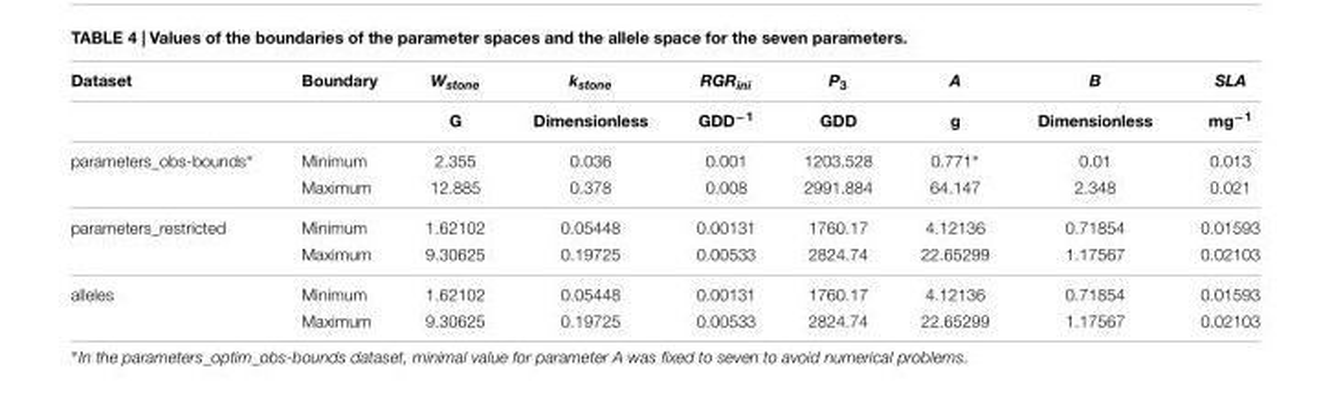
<table><thead><tr><td rowspan="2">Dataset</td><td rowspan="2">Boundary</td><td rowspan="2">Wstone G</td><td rowspan="2">kstone Dimensionless</td><td rowspan="2">RGRini GDD−1</td><td rowspan="2">P3 GDD</td><td rowspan="2">A g</td><td rowspan="2">B Dimensionless</td><td rowspan="2">SLA mg−1</td></tr><tr></tr></thead><tbody><tr><td rowspan="2">parameters_obs-bounds∗</td><td>Minimum</td><td>2.355</td><td>0.036</td><td>0.001</td><td>1203.528</td><td>0.771∗</td><td>0.01</td><td>0.013</td></tr><tr><td>Maximum</td><td>12.885</td><td>0.378</td><td>0.008</td><td>2991.884</td><td>64.147</td><td>2.348</td><td>0.021</td></tr><tr><td rowspan="2">parameters_restricted</td><td>Minimum</td><td>1.62102</td><td>0.05448</td><td>0.00131</td><td>1760.17</td><td>4.12136</td><td>0.71854</td><td>0.01593</td></tr><tr><td>Maximum</td><td>9.30625</td><td>0.19725</td><td>0.00533</td><td>2824.74</td><td>22.65299</td><td>1.17567</td><td>0.02103</td></tr><tr><td rowspan="2">alleles</td><td>Minimum</td><td>1.62102</td><td>0.05448</td><td>0.00131</td><td>1760.17</td><td>4.12136</td><td>0.71854</td><td>0.01593</td></tr><tr><td>Maximum</td><td>9.30625</td><td>0.19725</td><td>0.00533</td><td>2824.74</td><td>22.65299</td><td>1.17567</td><td>0.02103</td></tr></tbody></table>